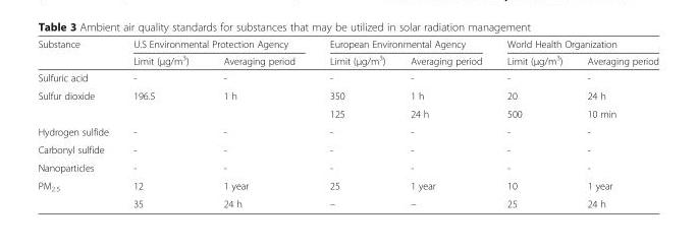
<table><thead><tr><td rowspan="2">Substance</td><td colspan="2">U.S Environmental Protection Agency</td><td colspan="2">European Environmental Agency</td><td colspan="2">World Health Organization</td></tr><tr><td>Limit (μg/m<sup>3</sup>)</td><td>Averaging period</td><td>Limit (μg/m<sup>3</sup>)</td><td>Averaging period</td><td>Limit (μg/m<sup>3</sup>)</td><td>Averaging period</td></tr></thead><tbody><tr><td>Sulfuric acid</td><td>-</td><td>-</td><td>-</td><td>-</td><td>-</td><td>-</td></tr><tr><td rowspan="2">Sulfur dioxide</td><td>196.5</td><td>1 h</td><td>350</td><td>1 h</td><td>20</td><td>24 h</td></tr><tr><td></td><td></td><td>125</td><td>24 h</td><td>500</td><td>10 min</td></tr><tr><td>Hydrogen sulfide</td><td>-</td><td>-</td><td>-</td><td>-</td><td>-</td><td>-</td></tr><tr><td>Carbonyl sulfide</td><td>-</td><td>-</td><td>-</td><td>-</td><td>-</td><td>-</td></tr><tr><td>Nanoparticles</td><td>-</td><td>-</td><td>-</td><td>-</td><td>-</td><td>-</td></tr><tr><td rowspan="2">PM<sub>2.5</sub></td><td>12</td><td>1 year</td><td>25</td><td>1 year</td><td>10</td><td>1 year</td></tr><tr><td>35</td><td>24 h</td><td>–</td><td>–</td><td>25</td><td>24 h</td></tr></tbody></table>